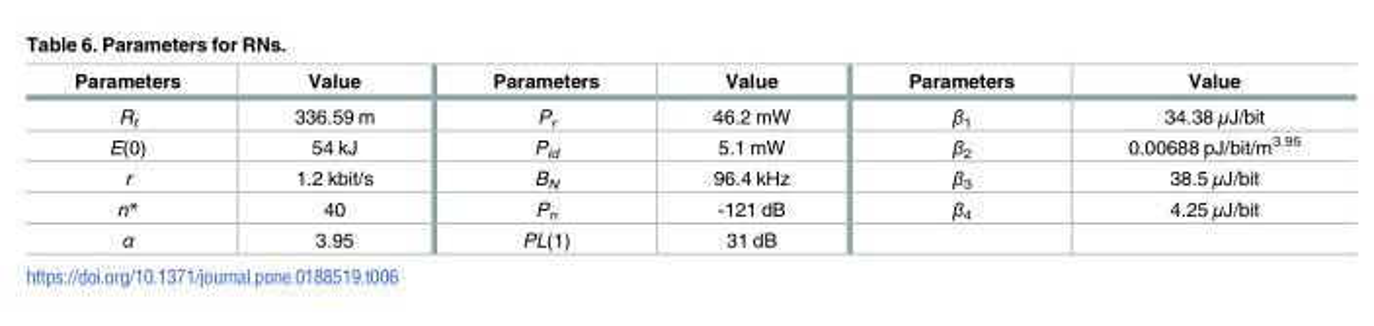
<table><thead><tr><td>Parameters</td><td>Value</td><td>Parameters</td><td>Value</td><td>Parameters</td><td>Value</td></tr></thead><tbody><tr><td>R<sub>t</sub></td><td>336.59 m</td><td>P<sub>r</sub></td><td>46.2 mW</td><td>β<sub>1</sub></td><td>34.38 μJ/bit</td></tr><tr><td>E(0)</td><td>54 kJ</td><td>P<sub>id</sub></td><td>5.1 mW</td><td>β<sub>2</sub></td><td>0.00688 pJ/bit/m<sup>3.95</sup></td></tr><tr><td>r</td><td>1.2 kbit/s</td><td>B<sub>N</sub></td><td>96.4 kHz</td><td>β<sub>3</sub></td><td>38.5 μJ/bit</td></tr><tr><td>n*</td><td>40</td><td>P<sub>n</sub></td><td>-121 dB</td><td>β<sub>4</sub></td><td>4.25 μJ/bit</td></tr><tr><td>α</td><td>3.95</td><td>PL(1)</td><td>31 dB</td><td></td><td></td></tr></tbody></table>